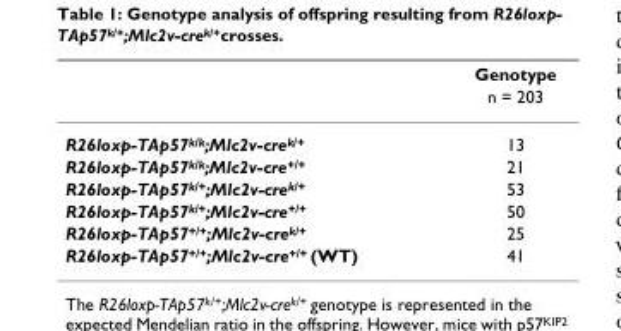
<table><thead><tr><td rowspan="2"></td><td rowspan="2">Genotype n = 203</td></tr><tr></tr></thead><tbody><tr><td>R26loxp-TAp57<sup>k/k</sup>;Mlc2v-cre<sup>k/+</sup></td><td>13</td></tr><tr><td>R26loxp-TAp57<sup>k/k</sup>;Mlc2v-cre<sup>+/+</sup></td><td>21</td></tr><tr><td>R26loxp-TAp57<sup>k/+</sup>;Mlc2v-cre<sup>k/+</sup></td><td>53</td></tr><tr><td>R26loxp-TAp57<sup>k/+</sup>;Mlc2v-cre<sup>+/+</sup></td><td>50</td></tr><tr><td>R26loxp-TAp57<sup>+/+</sup>;Mlc2v-cre<sup>k/+</sup></td><td>25</td></tr><tr><td>R26loxp-TAp57<sup>+/+</sup>;Mlc2v-cre<sup>+/+</sup> (WT)</td><td>41</td></tr></tbody></table>